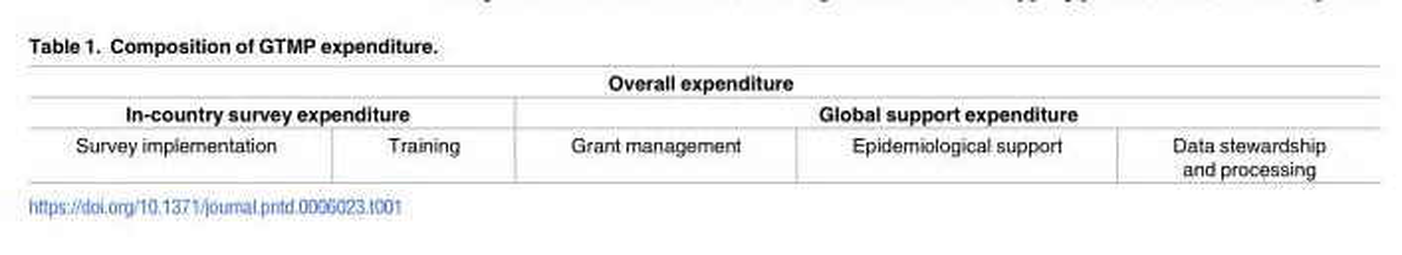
<table><thead><tr><td colspan="5">Overall expenditure</td></tr><tr><td colspan="2">In-country survey expenditure</td><td colspan="3">Global support expenditure</td></tr><tr><td>Survey implementation</td><td>Training</td><td>Grant management</td><td>Epidemiological support</td><td>Data stewardship and processing</td></tr></thead><tbody></tbody></table>